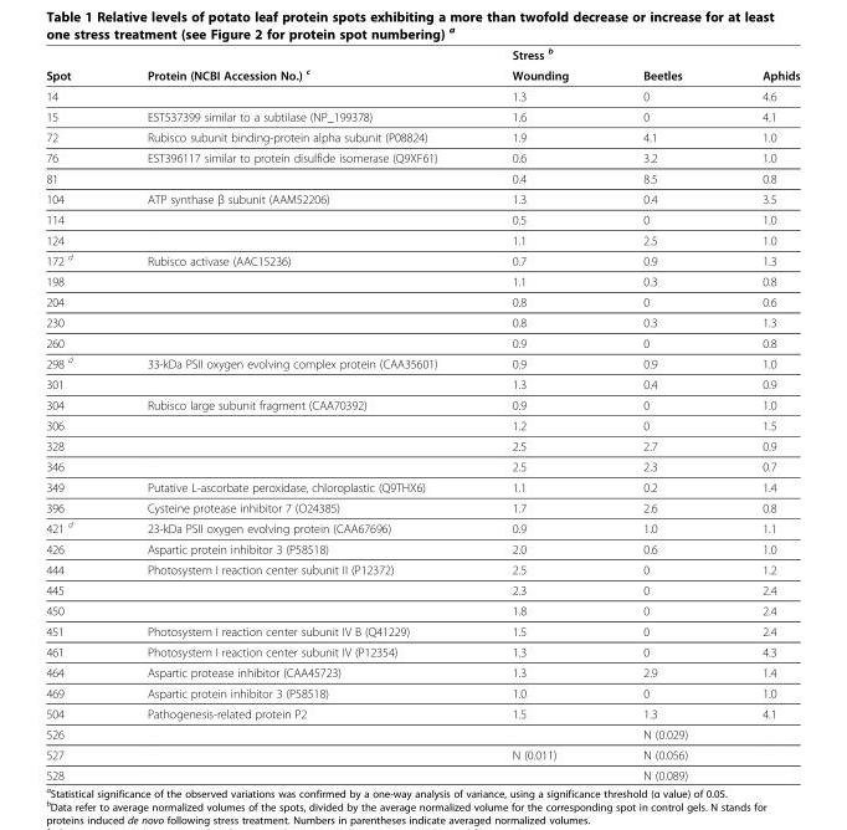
<table><thead><tr><td rowspan="2">Spot</td><td rowspan="2">Protein (NCBI Accession No.) <sup>c</sup></td><td rowspan="2">Stress <sup>b</sup> Wounding</td><td rowspan="2">Beetles</td><td rowspan="2">Aphids</td></tr><tr></tr></thead><tbody><tr><td>14</td><td></td><td>1.3</td><td>0</td><td>4.6</td></tr><tr><td>15</td><td>EST537399 similar to a subtilase (NP_199378)</td><td>1.6</td><td>0</td><td>4.1</td></tr><tr><td>72</td><td>Rubisco subunit binding-protein alpha subunit (P08824)</td><td>1.9</td><td>4.1</td><td>1.0</td></tr><tr><td>76</td><td>EST396117 similar to protein disulfide isomerase (Q9XF61)</td><td>0.6</td><td>3.2</td><td>1.0</td></tr><tr><td>81</td><td></td><td>0.4</td><td>8.5</td><td>0.8</td></tr><tr><td>104</td><td>ATP synthase β subunit (AAM52206)</td><td>1.3</td><td>0.4</td><td>3.5</td></tr><tr><td>114</td><td></td><td>0.5</td><td>0</td><td>1.0</td></tr><tr><td>124</td><td></td><td>1.1</td><td>2.5</td><td>1.0</td></tr><tr><td>172 <sup>d</sup></td><td>Rubisco activase (AAC15236)</td><td>0.7</td><td>0.9</td><td>1.3</td></tr><tr><td>198</td><td></td><td>1.1</td><td>0.3</td><td>0.8</td></tr><tr><td>204</td><td></td><td>0.8</td><td>0</td><td>0.6</td></tr><tr><td>230</td><td></td><td>0.8</td><td>0.3</td><td>1.3</td></tr><tr><td>260</td><td></td><td>0.9</td><td>0</td><td>0.8</td></tr><tr><td>298 <sup>d</sup></td><td>33-kDa PSII oxygen evolving complex protein (CAA35601)</td><td>0.9</td><td>0.9</td><td>1.0</td></tr><tr><td>301</td><td></td><td>1.3</td><td>0.4</td><td>0.9</td></tr><tr><td>304</td><td>Rubisco large subunit fragment (CAA70392)</td><td>0.9</td><td>0</td><td>1.0</td></tr><tr><td>306</td><td></td><td>1.2</td><td>0</td><td>1.5</td></tr><tr><td>328</td><td></td><td>2.5</td><td>2.7</td><td>0.9</td></tr><tr><td>346</td><td></td><td>2.5</td><td>2.3</td><td>0.7</td></tr><tr><td>349</td><td>Putative L-ascorbate peroxidase, chloroplastic (Q9THX6)</td><td>1.1</td><td>0.2</td><td>1.4</td></tr><tr><td>396</td><td>Cysteine protease inhibitor 7 (O24385)</td><td>1.7</td><td>2.6</td><td>0.8</td></tr><tr><td>421 <sup>d</sup></td><td>23-kDa PSII oxygen evolving protein (CAA67696)</td><td>0.9</td><td>1.0</td><td>1.1</td></tr><tr><td>426</td><td>Aspartic protein inhibitor 3 (P58518)</td><td>2.0</td><td>0.6</td><td>1.0</td></tr><tr><td>444</td><td>Photosystem I reaction center subunit II (P12372)</td><td>2.5</td><td>0</td><td>1.2</td></tr><tr><td>445</td><td></td><td>2.3</td><td>0</td><td>2.4</td></tr><tr><td>450</td><td></td><td>1.8</td><td>0</td><td>2.4</td></tr><tr><td>451</td><td>Photosystem I reaction center subunit IV B (Q41229)</td><td>1.5</td><td>0</td><td>2.4</td></tr><tr><td>461</td><td>Photosystem I reaction center subunit IV (P12354)</td><td>1.3</td><td>0</td><td>4.3</td></tr><tr><td>464</td><td>Aspartic protease inhibitor (CAA45723)</td><td>1.3</td><td>2.9</td><td>1.4</td></tr><tr><td>469</td><td>Aspartic protein inhibitor 3 (P58518)</td><td>1.0</td><td>0</td><td>1.0</td></tr><tr><td>504</td><td>Pathogenesis-related protein P2</td><td>1.5</td><td>1.3</td><td>4.1</td></tr><tr><td>526</td><td></td><td></td><td>N (0.029)</td><td></td></tr><tr><td>527</td><td></td><td>N (0.011)</td><td>N (0.056)</td><td></td></tr><tr><td>528</td><td></td><td></td><td>N (0.089)</td><td></td></tr></tbody></table>